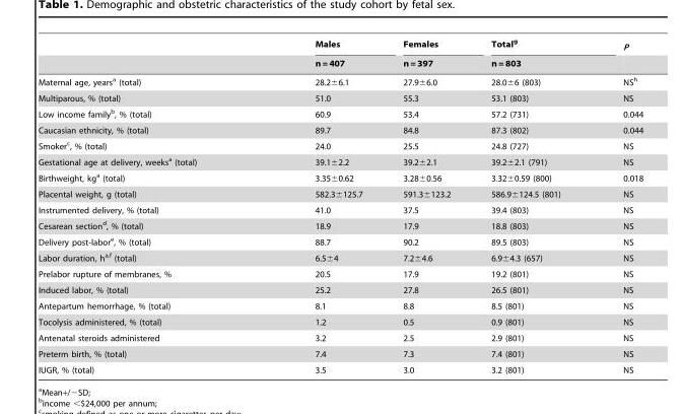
<table><thead><tr><td rowspan="2"></td><td rowspan="2">Males n = 407</td><td rowspan="2">Females n = 397</td><td rowspan="2">Total<sup>g</sup> n = 803</td><td rowspan="2">P</td></tr><tr></tr></thead><tbody><tr><td>Maternal age, years<sup>a</sup> (total)</td><td>28.2±6.1</td><td>27.9±6.0</td><td>28.0±6 (803)</td><td>NS<sup>h</sup></td></tr><tr><td>Multiparous, % (total)</td><td>51.0</td><td>55.3</td><td>53.1 (803)</td><td>NS</td></tr><tr><td>Low income family<sup>b</sup>, % (total)</td><td>60.9</td><td>53.4</td><td>57.2 (731)</td><td>0.044</td></tr><tr><td>Caucasian ethnicity, % (total)</td><td>89.7</td><td>84.8</td><td>87.3 (802)</td><td>0.044</td></tr><tr><td>Smoker<sup>c</sup>, % (total)</td><td>24.0</td><td>25.5</td><td>24.8 (727)</td><td>NS</td></tr><tr><td>Gestational age at delivery, weeks<sup>a</sup> (total)</td><td>39.1±2.2</td><td>39.2±2.1</td><td>39.2±2.1 (791)</td><td>NS</td></tr><tr><td>Birthweight, kg<sup>a</sup> (total)</td><td>3.35±0.62</td><td>3.28±0.56</td><td>3.32±0.59 (800)</td><td>0.018</td></tr><tr><td>Placental weight, g (total)</td><td>582.3±125.7</td><td>591.3±123.2</td><td>586.9±124.5 (801)</td><td>NS</td></tr><tr><td>Instrumented delivery, % (total)</td><td>41.0</td><td>37.5</td><td>39.4 (803)</td><td>NS</td></tr><tr><td>Cesarean section<sup>d</sup>, % (total)</td><td>18.9</td><td>17.9</td><td>18.8 (803)</td><td>NS</td></tr><tr><td>Delivery post-labor<sup>e</sup>, % (total)</td><td>88.7</td><td>90.2</td><td>89.5 (803)</td><td>NS</td></tr><tr><td>Labor duration, h<sup>a,</sup>f (total)</td><td>6.5±4</td><td>7.2±4.6</td><td>6.9±4.3 (657)</td><td>NS</td></tr><tr><td>Prelabor rupture of membranes, %</td><td>20.5</td><td>17.9</td><td>19.2 (801)</td><td>NS</td></tr><tr><td>Induced labor, % (total)</td><td>25.2</td><td>27.8</td><td>26.5 (801)</td><td>NS</td></tr><tr><td>Antepartum hemorrhage, % (total)</td><td>8.1</td><td>8.8</td><td>8.5 (801)</td><td>NS</td></tr><tr><td>Tocolysis administered, % (total)</td><td>1.2</td><td>0.5</td><td>0.9 (801)</td><td>NS</td></tr><tr><td>Antenatal steroids administered</td><td>3.2</td><td>2.5</td><td>2.9 (801)</td><td>NS</td></tr><tr><td>Preterm birth, % (total)</td><td>7.4</td><td>7.3</td><td>7.4 (801)</td><td>NS</td></tr><tr><td>IUGR, % (total)</td><td>3.5</td><td>3.0</td><td>3.2 (801)</td><td>NS</td></tr></tbody></table>